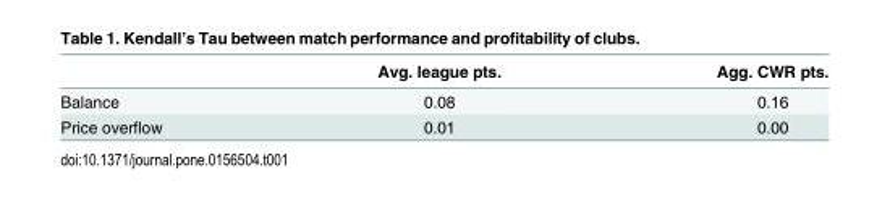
<table><thead><tr><td></td><td>Avg. league pts.</td><td>Agg. CWR pts.</td></tr></thead><tbody><tr><td>Balance</td><td>0.08</td><td>0.16</td></tr><tr><td>Price overflow</td><td>0.01</td><td>0.00</td></tr></tbody></table>